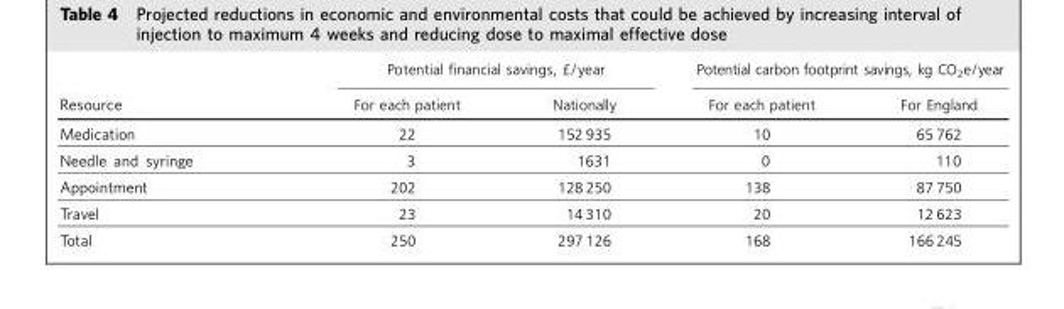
<table><thead><tr><td rowspan="2">Resource</td><td colspan="2">Potential financial savings, »/year</td><td colspan="2">Potential carbon footprint savings, kg CO<sub>2</sub>e/year</td></tr><tr><td>For each patient</td><td>Nationally</td><td>For each patient</td><td>For England</td></tr></thead><tbody><tr><td>Medication</td><td>22</td><td>152 935</td><td>10</td><td>65 762</td></tr><tr><td>Needle and syringe</td><td>3</td><td>1631</td><td>0</td><td>110</td></tr><tr><td>Appointment</td><td>202</td><td>128 250</td><td>138</td><td>87 750</td></tr><tr><td>Travel</td><td>23</td><td>14 310</td><td>20</td><td>12 623</td></tr><tr><td>Total</td><td>250</td><td>297 126</td><td>168</td><td>166 245</td></tr></tbody></table>